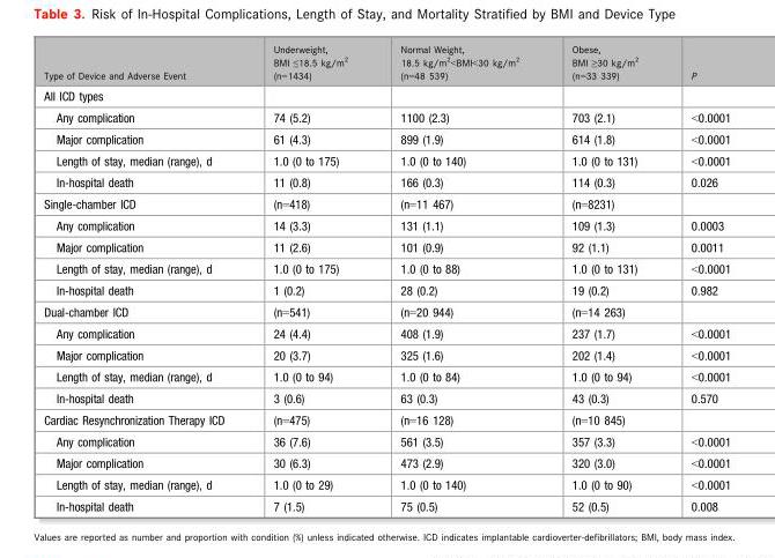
<table><thead><tr><td>Type of Device and Adverse Event</td><td>Underweight, BMI ≤18.5 kg/m<sup>2</sup> (n=1434)</td><td>Normal Weight, 18.5 kg/m<sup>2</sup>&lt;BMI&lt;30 kg/m<sup>2</sup> (n=48 539)</td><td>Obese, BMI ≥30 kg/m<sup>2</sup> (n=33 339)</td><td>P</td></tr></thead><tbody><tr><td colspan="5">All ICD types</td></tr><tr><td>Any complication</td><td>74 (5.2)</td><td>1100 (2.3)</td><td>703 (2.1)</td><td>&lt;0.0001</td></tr><tr><td>Major complication</td><td>61 (4.3)</td><td>899 (1.9)</td><td>614 (1.8)</td><td>&lt;0.0001</td></tr><tr><td>Length of stay, median (range), d</td><td>1.0 (0 to 175)</td><td>1.0 (0 to 140)</td><td>1.0 (0 to 131)</td><td>&lt;0.0001</td></tr><tr><td>In-hospital death</td><td>11 (0.8)</td><td>166 (0.3)</td><td>114 (0.3)</td><td>0.026</td></tr><tr><td>Single-chamber ICD</td><td>(n=418)</td><td>(n=11 467)</td><td>(n=8231)</td><td></td></tr><tr><td>Any complication</td><td>14 (3.3)</td><td>131 (1.1)</td><td>109 (1.3)</td><td>0.0003</td></tr><tr><td>Major complication</td><td>11 (2.6)</td><td>101 (0.9)</td><td>92 (1.1)</td><td>0.0011</td></tr><tr><td>Length of stay, median (range), d</td><td>1.0 (0 to 175)</td><td>1.0 (0 to 88)</td><td>1.0 (0 to 131)</td><td>&lt;0.0001</td></tr><tr><td>In-hospital death</td><td>1 (0.2)</td><td>28 (0.2)</td><td>19 (0.2)</td><td>0.982</td></tr><tr><td>Dual-chamber ICD</td><td>(n=541)</td><td>(n=20 944)</td><td>(n=14 263)</td><td></td></tr><tr><td>Any complication</td><td>24 (4.4)</td><td>408 (1.9)</td><td>237 (1.7)</td><td>&lt;0.0001</td></tr><tr><td>Major complication</td><td>20 (3.7)</td><td>325 (1.6)</td><td>202 (1.4)</td><td>&lt;0.0001</td></tr><tr><td>Length of stay, median (range), d</td><td>1.0 (0 to 94)</td><td>1.0 (0 to 84)</td><td>1.0 (0 to 94)</td><td>&lt;0.0001</td></tr><tr><td>In-hospital death</td><td>3 (0.6)</td><td>63 (0.3)</td><td>43 (0.3)</td><td>0.570</td></tr><tr><td>Cardiac Resynchronization Therapy ICD</td><td>(n=475)</td><td>(n=16 128)</td><td>(n=10 845)</td><td></td></tr><tr><td>Any complication</td><td>36 (7.6)</td><td>561 (3.5)</td><td>357 (3.3)</td><td>&lt;0.0001</td></tr><tr><td>Major complication</td><td>30 (6.3)</td><td>473 (2.9)</td><td>320 (3.0)</td><td>&lt;0.0001</td></tr><tr><td>Length of stay, median (range), d</td><td>1.0 (0 to 29)</td><td>1.0 (0 to 140)</td><td>1.0 (0 to 90)</td><td>&lt;0.0001</td></tr><tr><td>In-hospital death</td><td>7 (1.5)</td><td>75 (0.5)</td><td>52 (0.5)</td><td>0.008</td></tr></tbody></table>